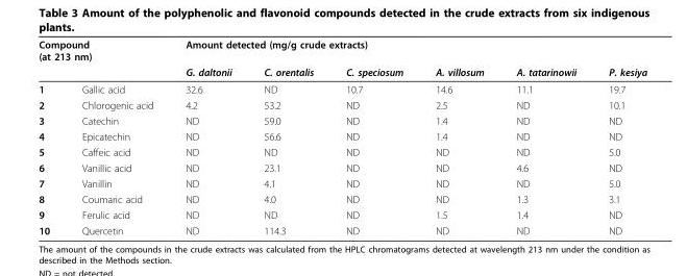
<table><thead><tr><td colspan="2">Compound (at 213 nm)</td><td colspan="6">Amount detected (mg/g crude extracts)</td></tr><tr><td></td><td></td><td>G. daltonii</td><td>C. orentalis</td><td>C. speciosum</td><td>A. villosum</td><td>A. tatarinowii</td><td>P. kesiya</td></tr></thead><tbody><tr><td>1</td><td>Gallic acid</td><td>32.6</td><td>ND</td><td>10.7</td><td>14.6</td><td>11.1</td><td>19.7</td></tr><tr><td>2</td><td>Chlorogenic acid</td><td>4.2</td><td>53.2</td><td>ND</td><td>2.5</td><td>ND</td><td>10.1</td></tr><tr><td>3</td><td>Catechin</td><td>ND</td><td>59.0</td><td>ND</td><td>1.4</td><td>ND</td><td>ND</td></tr><tr><td>4</td><td>Epicatechin</td><td>ND</td><td>56.6</td><td>ND</td><td>1.4</td><td>ND</td><td>ND</td></tr><tr><td>5</td><td>Caffeic acid</td><td>ND</td><td>ND</td><td>ND</td><td>ND</td><td>ND</td><td>5.0</td></tr><tr><td>6</td><td>Vanillic acid</td><td>ND</td><td>23.1</td><td>ND</td><td>ND</td><td>4.6</td><td>ND</td></tr><tr><td>7</td><td>Vanillin</td><td>ND</td><td>4.1</td><td>ND</td><td>ND</td><td>ND</td><td>5.0</td></tr><tr><td>8</td><td>Coumaric acid</td><td>ND</td><td>4.0</td><td>ND</td><td>ND</td><td>1.3</td><td>3.1</td></tr><tr><td>9</td><td>Ferulic acid</td><td>ND</td><td>ND</td><td>ND</td><td>1.5</td><td>1.4</td><td>ND</td></tr><tr><td>10</td><td>Quercetin</td><td>ND</td><td>114.3</td><td>ND</td><td>ND</td><td>ND</td><td>ND</td></tr></tbody></table>